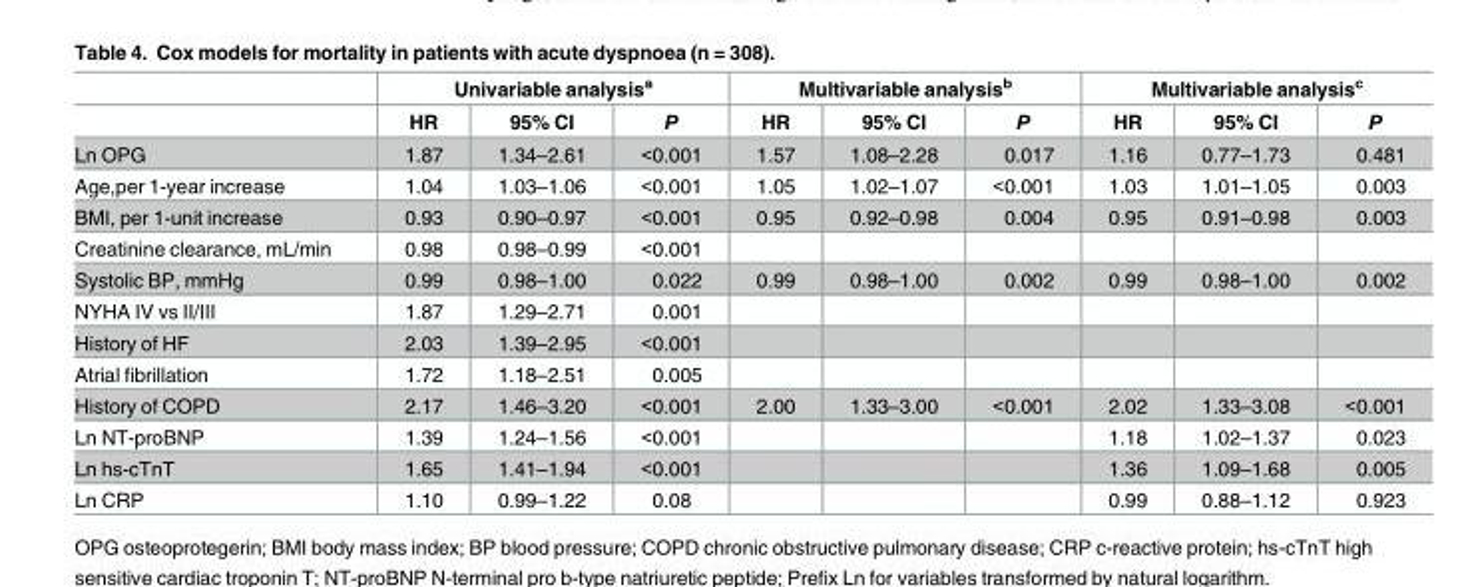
<table><thead><tr><td rowspan="2"></td><td colspan="3">Univariable analysis<sup>a</sup></td><td colspan="3">Multivariable analysis<sup>b</sup></td><td colspan="3">Multivariable analysis<sup>c</sup></td></tr><tr><td>HR</td><td>95% CI</td><td>P</td><td>HR</td><td>95% CI</td><td>P</td><td>HR</td><td>95% CI</td><td>P</td></tr></thead><tbody><tr><td>Ln OPG</td><td>1.87</td><td>1.34–2.61</td><td>&lt;0.001</td><td>1.57</td><td>1.08–2.28</td><td>0.017</td><td>1.16</td><td>0.77–1.73</td><td>0.481</td></tr><tr><td>Age,per 1-year increase</td><td>1.04</td><td>1.03–1.06</td><td>&lt;0.001</td><td>1.05</td><td>1.02–1.07</td><td>&lt;0.001</td><td>1.03</td><td>1.01–1.05</td><td>0.003</td></tr><tr><td>BMI, per 1-unit increase</td><td>0.93</td><td>0.90–0.97</td><td>&lt;0.001</td><td>0.95</td><td>0.92–0.98</td><td>0.004</td><td>0.95</td><td>0.91–0.98</td><td>0.003</td></tr><tr><td>Creatinine clearance, mL/min</td><td>0.98</td><td>0.98–0.99</td><td>&lt;0.001</td><td></td><td></td><td></td><td></td><td></td><td></td></tr><tr><td>Systolic BP, mmHg</td><td>0.99</td><td>0.98–1.00</td><td>0.022</td><td>0.99</td><td>0.98–1.00</td><td>0.002</td><td>0.99</td><td>0.98–1.00</td><td>0.002</td></tr><tr><td>NYHA IV vs II/III</td><td>1.87</td><td>1.29–2.71</td><td>0.001</td><td></td><td></td><td></td><td></td><td></td><td></td></tr><tr><td>History of HF</td><td>2.03</td><td>1.39–2.95</td><td>&lt;0.001</td><td></td><td></td><td></td><td></td><td></td><td></td></tr><tr><td>Atrial fibrillation</td><td>1.72</td><td>1.18–2.51</td><td>0.005</td><td></td><td></td><td></td><td></td><td></td><td></td></tr><tr><td>History of COPD</td><td>2.17</td><td>1.46–3.20</td><td>&lt;0.001</td><td>2.00</td><td>1.33–3.00</td><td>&lt;0.001</td><td>2.02</td><td>1.33–3.08</td><td>&lt;0.001</td></tr><tr><td>Ln NT-proBNP</td><td>1.39</td><td>1.24–1.56</td><td>&lt;0.001</td><td></td><td></td><td></td><td>1.18</td><td>1.02–1.37</td><td>0.023</td></tr><tr><td>Ln hs-cTnT</td><td>1.65</td><td>1.41–1.94</td><td>&lt;0.001</td><td></td><td></td><td></td><td>1.36</td><td>1.09–1.68</td><td>0.005</td></tr><tr><td>Ln CRP</td><td>1.10</td><td>0.99–1.22</td><td>0.08</td><td></td><td></td><td></td><td>0.99</td><td>0.88–1.12</td><td>0.923</td></tr></tbody></table>